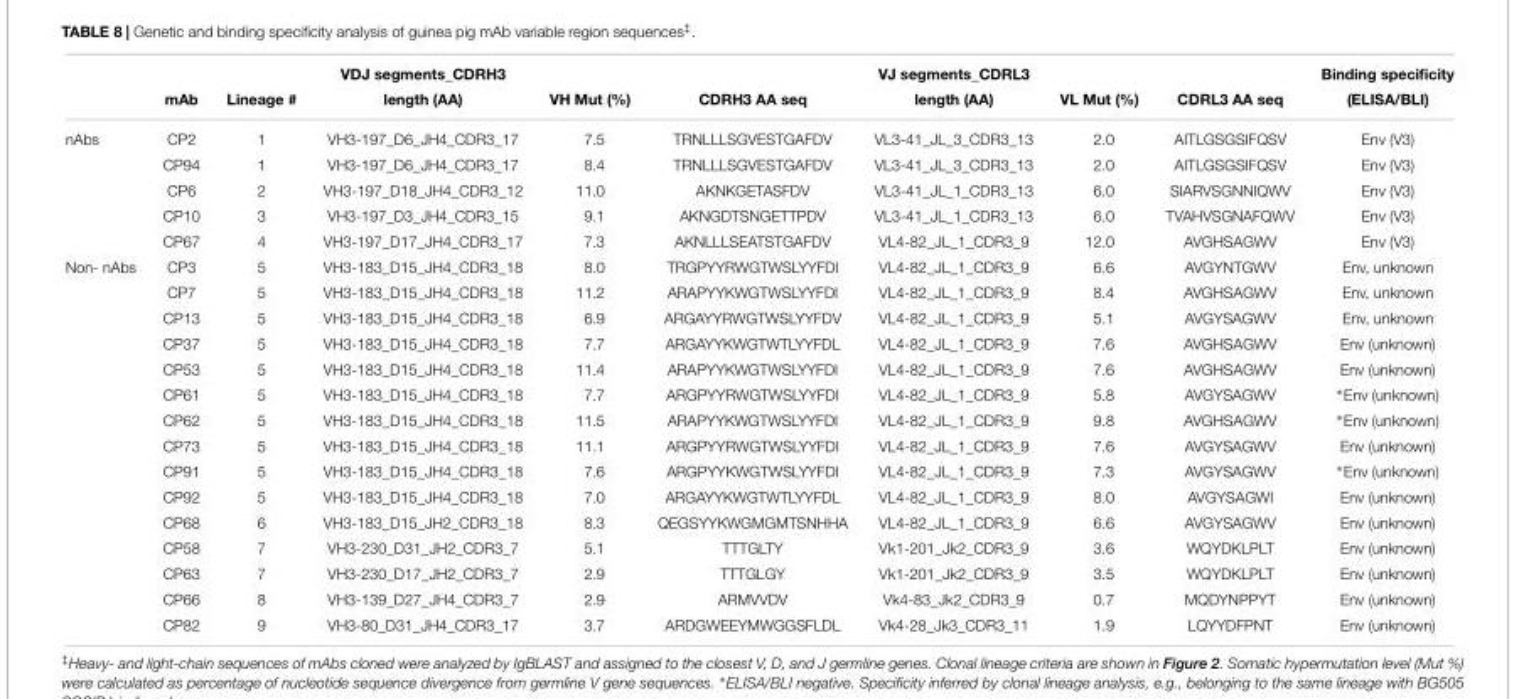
<table><thead><tr><td rowspan="2"></td><td rowspan="2">mAb</td><td rowspan="2">Lineage #</td><td rowspan="2">VDJ segments_CDRH3 length (AA)</td><td rowspan="2">VH Mut (%)</td><td rowspan="2">CDRH3 AA seq</td><td rowspan="2">VJ segments_CDRL3 length (AA)</td><td rowspan="2">VL Mut (%)</td><td rowspan="2">CDRL3 AA seq</td><td rowspan="2">Binding specificity (ELISA/BLI)</td></tr><tr></tr></thead><tbody><tr><td rowspan="5">nAbs</td><td>CP2</td><td>1</td><td>VH3-197_D6_JH4_CDR3_17</td><td>7.5</td><td>TRNLLLSGVESTGAFDV</td><td>VL3-41_JL_3_CDR3_13</td><td>2.0</td><td>AITLGSGSIFQSV</td><td>Env (V3)</td></tr><tr><td>CP94</td><td>1</td><td>VH3-197_D6_JH4_CDR3_17</td><td>8.4</td><td>TRNLLLSGVESTGAFDV</td><td>VL3-41_JL_3_CDR3_13</td><td>2.0</td><td>AITLGSGSIFQSV</td><td>Env (V3)</td></tr><tr><td>CP6</td><td>2</td><td>VH3-197_D18_JH4_CDR3_12</td><td>11.0</td><td>AKNKGETASFDV</td><td>VL3-41_JL_1_CDR3_13</td><td>6.0</td><td>SIARVSGNNIQWV</td><td>Env (V3)</td></tr><tr><td>CP10</td><td>3</td><td>VH3-197_D3_JH4_CDR3_15</td><td>9.1</td><td>AKNGDTSNGETTPDV</td><td>VL3-41_JL_1_CDR3_13</td><td>6.0</td><td>TVAHVSGNAFQWV</td><td>Env (V3)</td></tr><tr><td>CP67</td><td>4</td><td>VH3-197_D17_JH4_CDR3_17</td><td>7.3</td><td>AKNLLLSEATSTGAFDV</td><td>VL4-82_JL_1_CDR3_9</td><td>12.0</td><td>AVGHSAGWV</td><td>Env (V3)</td></tr><tr><td rowspan="15">Non- nAbs</td><td>CP3</td><td>5</td><td>VH3-183_D15_JH4_CDR3_18</td><td>8.0</td><td>TRGPYYRWGTWSLYYFDI</td><td>VL4-82_JL_1_CDR3_9</td><td>6.6</td><td>AVGYNTGWV</td><td>Env, unknown</td></tr><tr><td>CP7</td><td>5</td><td>VH3-183_D15_JH4_CDR3_18</td><td>11.2</td><td>ARAPYYKWGTWSLYYFDI</td><td>VL4-82_JL_1_CDR3_9</td><td>8.4</td><td>AVGHSAGWV</td><td>Env, unknown</td></tr><tr><td>CP13</td><td>5</td><td>VH3-183_D15_JH4_CDR3_18</td><td>6.9</td><td>ARGAYYRWGTWSLYYFDV</td><td>VL4-82_JL_1_CDR3_9</td><td>5.1</td><td>AVGYSAGWV</td><td>Env, unknown</td></tr><tr><td>CP37</td><td>5</td><td>VH3-183_D15_JH4_CDR3_18</td><td>7.7</td><td>ARGAYYKWGTWTLYYFDL</td><td>VL4-82_JL_1_CDR3_9</td><td>7.6</td><td>AVGHSAGWV</td><td>Env (unknown)</td></tr><tr><td>CP53</td><td>5</td><td>VH3-183_D15_JH4_CDR3_18</td><td>11.4</td><td>ARAPYYKWGTWSLYYFDI</td><td>VL4-82_JL_1_CDR3_9</td><td>7.6</td><td>AVGHSAGWV</td><td>Env (unknown)</td></tr><tr><td>CP61</td><td>5</td><td>VH3-183_D15_JH4_CDR3_18</td><td>7.7</td><td>ARGPYYRWGTWSLYYFDI</td><td>VL4-82_JL_1_CDR3_9</td><td>5.8</td><td>AVGYSAGWV</td><td>∗Env (unknown)</td></tr><tr><td>CP62</td><td>5</td><td>VH3-183_D15_JH4_CDR3_18</td><td>11.5</td><td>ARAPYYKWGTWSLYYFDI</td><td>VL4-82_JL_1_CDR3_9</td><td>9.8</td><td>AVGHSAGWV</td><td>∗Env (unknown)</td></tr><tr><td>CP73</td><td>5</td><td>VH3-183_D15_JH4_CDR3_18</td><td>11.1</td><td>ARGPYYRWGTWSLYYFDI</td><td>VL4-82_JL_1_CDR3_9</td><td>7.6</td><td>AVGYSAGWV</td><td>Env (unknown)</td></tr><tr><td>CP91</td><td>5</td><td>VH3-183_D15_JH4_CDR3_18</td><td>7.6</td><td>ARGPYYKWGTWSLYYFDI</td><td>VL4-82_JL_1_CDR3_9</td><td>7.3</td><td>AVGYSAGWV</td><td>∗Env (unknown)</td></tr><tr><td>CP92</td><td>5</td><td>VH3-183_D15_JH4_CDR3_18</td><td>7.0</td><td>ARGAYYKWGTWTLYYFDL</td><td>VL4-82_JL_1_CDR3_9</td><td>8.0</td><td>AVGYSAGWI</td><td>Env (unknown)</td></tr><tr><td>CP68</td><td>6</td><td>VH3-183_D15_JH2_CDR3_18</td><td>8.3</td><td>QEGSYYKWGMGMTSNHHA</td><td>VL4-82_JL_1_CDR3_9</td><td>6.6</td><td>AVGYSAGWV</td><td>Env (unknown)</td></tr><tr><td>CP58</td><td>7</td><td>VH3-230_D31_JH2_CDR3_7</td><td>5.1</td><td>TTTGLTY</td><td>Vk1-201_Jk2_CDR3_9</td><td>3.6</td><td>WQYDKLPLT</td><td>Env (unknown)</td></tr><tr><td>CP63</td><td>7</td><td>VH3-230_D17_JH2_CDR3_7</td><td>2.9</td><td>TTTGLGY</td><td>Vk1-201_Jk2_CDR3_9</td><td>3.5</td><td>WQYDKLPLT</td><td>Env (unknown)</td></tr><tr><td>CP66</td><td>8</td><td>VH3-139_D27_JH4_CDR3_7</td><td>2.9</td><td>ARMVVDV</td><td>Vk4-83_Jk2_CDR3_9</td><td>0.7</td><td>MQDYNPPYT</td><td>Env (unknown)</td></tr><tr><td>CP82</td><td>9</td><td>VH3-80_D31_JH4_CDR3_17</td><td>3.7</td><td>ARDGWEEYMWGGSFLDL</td><td>Vk4-28_Jk3_CDR3_11</td><td>1.9</td><td>LQYYDFPNT</td><td>Env (unknown)</td></tr></tbody></table>